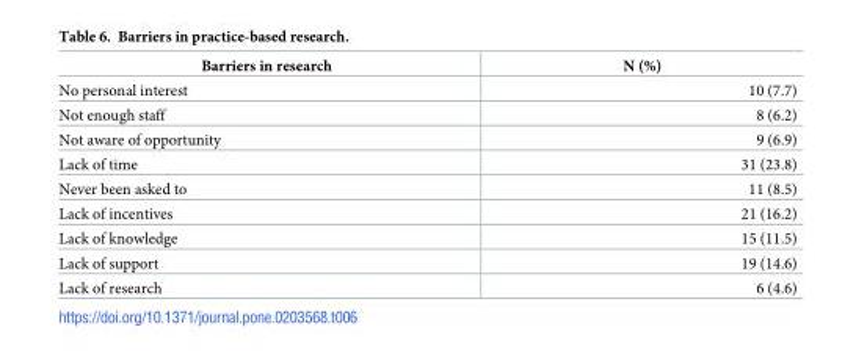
<table><thead><tr><td>Barriers in research</td><td>N (%)</td></tr></thead><tbody><tr><td>No personal interest</td><td>10 (7.7)</td></tr><tr><td>Not enough staff</td><td>8 (6.2)</td></tr><tr><td>Not aware of opportunity</td><td>9 (6.9)</td></tr><tr><td>Lack of time</td><td>31 (23.8)</td></tr><tr><td>Never been asked to</td><td>11 (8.5)</td></tr><tr><td>Lack of incentives</td><td>21 (16.2)</td></tr><tr><td>Lack of knowledge</td><td>15 (11.5)</td></tr><tr><td>Lack of support</td><td>19 (14.6)</td></tr><tr><td>Lack of research</td><td>6 (4.6)</td></tr></tbody></table>